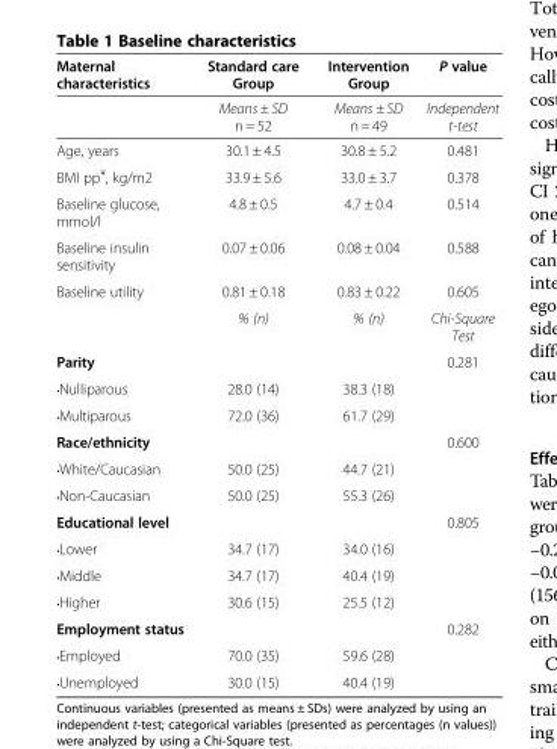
<table><thead><tr><td rowspan="2">Maternal characteristics</td><td rowspan="2">Standard care Group Means ± SD n = 52</td><td rowspan="2">Intervention Group Means ± SD n = 49</td><td rowspan="2">P value Independent t-test</td></tr><tr></tr></thead><tbody><tr><td>Age, years</td><td>30.1 ± 4.5</td><td>30.8 ± 5.2</td><td>0.481</td></tr><tr><td>BMI pp<sup>¥</sup>, kg/m2</td><td>33.9 ± 5.6</td><td>33.0 ± 3.7</td><td>0.378</td></tr><tr><td>Baseline glucose, mmol/l</td><td>4.8 ± 0.5</td><td>4.7 ± 0.4</td><td>0.514</td></tr><tr><td>Baseline insulin sensitivity</td><td>0.07 ± 0.06</td><td>0.08 ± 0.04</td><td>0.588</td></tr><tr><td rowspan="2">Baseline utility</td><td>0.81 ± 0.18</td><td>0.83 ± 0.22</td><td>0.605</td></tr><tr><td>% (n)</td><td>% (n)</td><td>Chi-Square Test</td></tr><tr><td>Parity</td><td></td><td></td><td>0.281</td></tr><tr><td>•Nulliparous</td><td>28.0 (14)</td><td>38.3 (18)</td><td></td></tr><tr><td>•Multiparous</td><td>72.0 (36)</td><td>61.7 (29)</td><td></td></tr><tr><td>Race/ethnicity</td><td></td><td></td><td>0.600</td></tr><tr><td>•White/Caucasian</td><td>50.0 (25)</td><td>44.7 (21)</td><td></td></tr><tr><td>•Non-Caucasian</td><td>50.0 (25)</td><td>55.3 (26)</td><td></td></tr><tr><td>Educational level</td><td></td><td></td><td>0.805</td></tr><tr><td>•Lower</td><td>34.7 (17)</td><td>34.0 (16)</td><td></td></tr><tr><td>•Middle</td><td>34.7 (17)</td><td>40.4 (19)</td><td></td></tr><tr><td>•Higher</td><td>30.6 (15)</td><td>25.5 (12)</td><td></td></tr><tr><td>Employment status</td><td></td><td></td><td>0.282</td></tr><tr><td>•Employed</td><td>70.0 (35)</td><td>59.6 (28)</td><td></td></tr><tr><td>•Unemployed</td><td>30.0 (15)</td><td>40.4 (19)</td><td></td></tr></tbody></table>